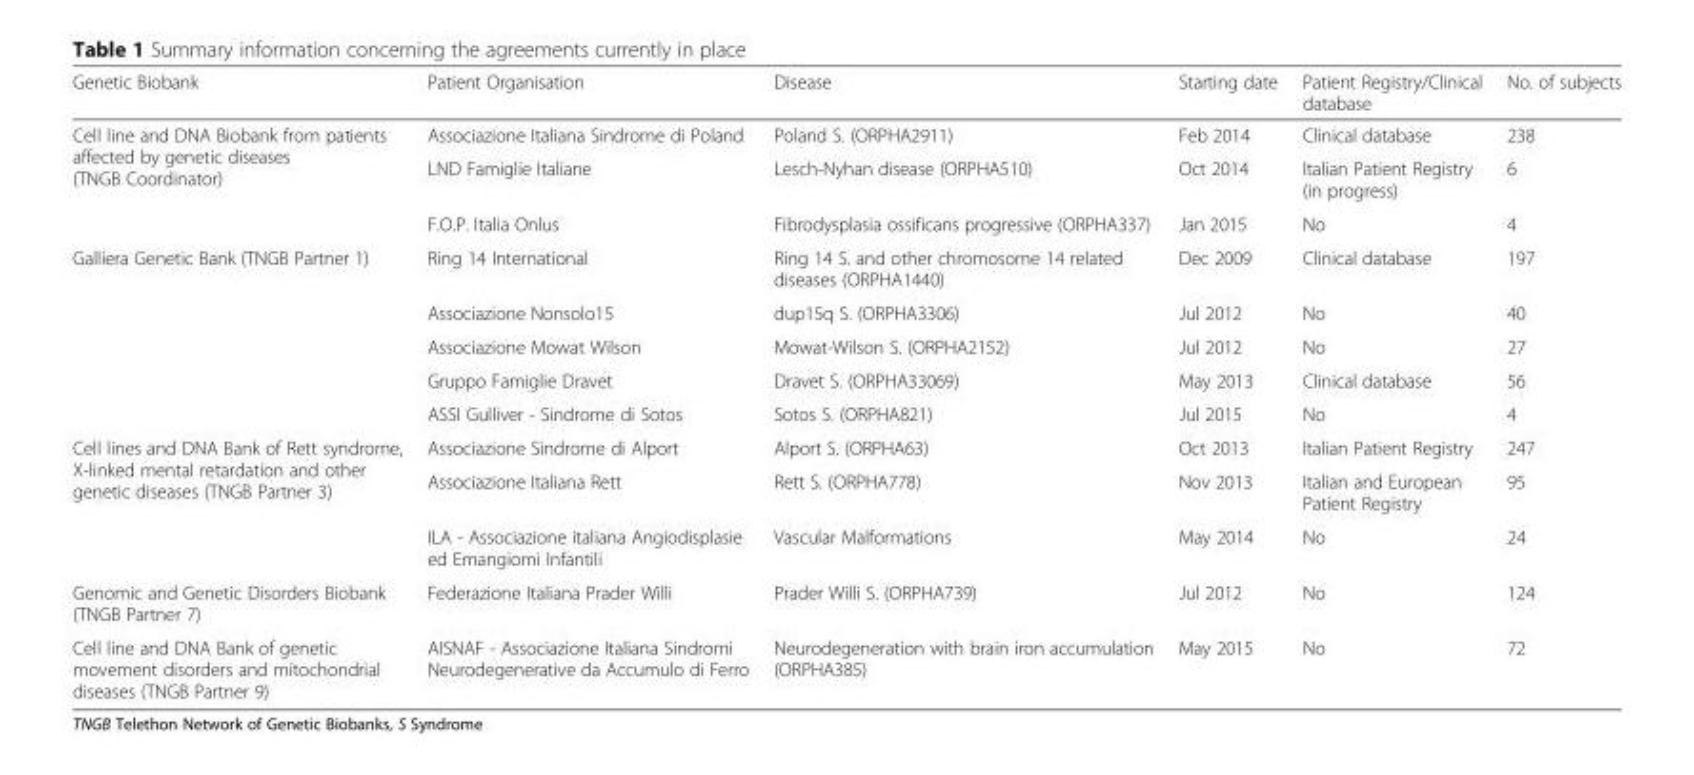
<table><thead><tr><td>Genetic Biobank</td><td>Patient Organisation</td><td>Disease</td><td>Starting date</td><td>Patient Registry/Clinical database</td><td>No. of subjects</td></tr></thead><tbody><tr><td rowspan="3">Cell line and DNA Biobank from patients affected by genetic diseases (TNGB Coordinator)</td><td>Associazione Italiana Sindrome di Poland</td><td>Poland S. (ORPHA2911)</td><td>Feb 2014</td><td>Clinical database</td><td>238</td></tr><tr><td>LND Famiglie Italiane</td><td>Lesch-Nyhan disease (ORPHA510)</td><td>Oct 2014</td><td>Italian Patient Registry (in progress)</td><td>6</td></tr><tr><td>F.O.P. Italia Onlus</td><td>Fibrodysplasia ossificans progressive (ORPHA337)</td><td>Jan 2015</td><td>No</td><td>4</td></tr><tr><td rowspan="5">Galliera Genetic Bank (TNGB Partner 1)</td><td>Ring 14 International</td><td>Ring 14 S. and other chromosome 14 related diseases (ORPHA1440)</td><td>Dec 2009</td><td>Clinical database</td><td>197</td></tr><tr><td>Associazione Nonsolo15</td><td>dup15q S. (ORPHA3306)</td><td>Jul 2012</td><td>No</td><td>40</td></tr><tr><td>Associazione Mowat Wilson</td><td>Mowat-Wilson S. (ORPHA2152)</td><td>Jul 2012</td><td>No</td><td>27</td></tr><tr><td>Gruppo Famiglie Dravet</td><td>Dravet S. (ORPHA33069)</td><td>May 2013</td><td>Clinical database</td><td>56</td></tr><tr><td>ASSI Gulliver - Sindrome di Sotos</td><td>Sotos S. (ORPHA821)</td><td>Jul 2015</td><td>No</td><td>4</td></tr><tr><td rowspan="3">Cell lines and DNA Bank of Rett syndrome, X-linked mental retardation and other genetic diseases (TNGB Partner 3)</td><td>Associazione Sindrome di Alport</td><td>Alport S. (ORPHA63)</td><td>Oct 2013</td><td>Italian Patient Registry</td><td>247</td></tr><tr><td>Associazione Italiana Rett</td><td>Rett S. (ORPHA778)</td><td>Nov 2013</td><td>Italian and European Patient Registry</td><td>95</td></tr><tr><td>ILA - Associazione italiana Angiodisplasie ed Emangiomi Infantili</td><td>Vascular Malformations</td><td>May 2014</td><td>No</td><td>24</td></tr><tr><td>Genomic and Genetic Disorders Biobank (TNGB Partner 7)</td><td>Federazione Italiana Prader Willi</td><td>Prader Willi S. (ORPHA739)</td><td>Jul 2012</td><td>No</td><td>124</td></tr><tr><td>Cell line and DNA Bank of genetic movement disorders and mitochondrial diseases (TNGB Partner 9)</td><td>AISNAF - Associazione Italiana Sindromi Neurodegenerative da Accumulo di Ferro</td><td>Neurodegeneration with brain iron accumulation (ORPHA385)</td><td>May 2015</td><td>No</td><td>72</td></tr></tbody></table>